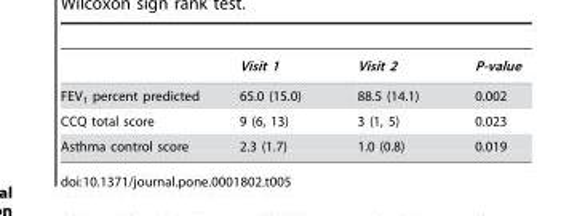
<table><thead><tr><td></td><td>Visit 1</td><td>Visit 2</td><td>P-value</td></tr></thead><tbody><tr><td>FEV<sub>1</sub> percent predicted</td><td>65.0 (15.0)</td><td>88.5 (14.1)</td><td>0.002</td></tr><tr><td>CCQ total score</td><td>9 (6, 13)</td><td>3 (1, 5)</td><td>0.023</td></tr><tr><td>Asthma control score</td><td>2.3 (1.7)</td><td>1.0 (0.8)</td><td>0.019</td></tr></tbody></table>